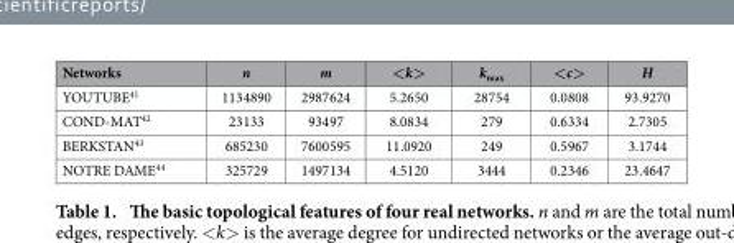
<table><thead><tr><td>Networks</td><td>n</td><td>m</td><td>&lt;k&gt;</td><td>k<sub>max</sub></td><td>&lt;c&gt;</td><td>H</td></tr></thead><tbody><tr><td>YOUTUBE<sup>41</sup></td><td>1134890</td><td>2987624</td><td>5.2650</td><td>28754</td><td>0.0808</td><td>93.9270</td></tr><tr><td>COND-MAT<sup>42</sup></td><td>23133</td><td>93497</td><td>8.0834</td><td>279</td><td>0.6334</td><td>2.7305</td></tr><tr><td>BERKSTAN<sup>43</sup></td><td>685230</td><td>7600595</td><td>11.0920</td><td>249</td><td>0.5967</td><td>3.1744</td></tr><tr><td>NOTRE DAME<sup>44</sup></td><td>325729</td><td>1497134</td><td>4.5120</td><td>3444</td><td>0.2346</td><td>23.4647</td></tr></tbody></table>